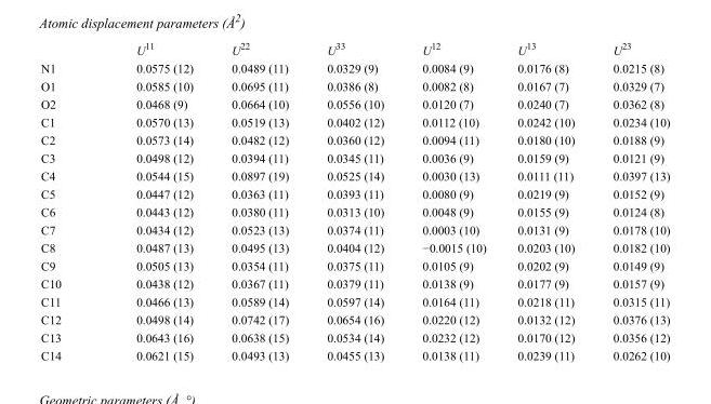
<table><thead><tr><td></td><td>U<sup>11</sup></td><td>U<sup>22</sup></td><td>U<sup>33</sup></td><td>U<sup>12</sup></td><td>U<sup>13</sup></td><td>U<sup>23</sup></td></tr></thead><tbody><tr><td>N1</td><td>0.0575 (12)</td><td>0.0489 (11)</td><td>0.0329 (9)</td><td>0.0084 (9)</td><td>0.0176 (8)</td><td>0.0215 (8)</td></tr><tr><td>O1</td><td>0.0585 (10)</td><td>0.0695 (11)</td><td>0.0386 (8)</td><td>0.0082 (8)</td><td>0.0167 (7)</td><td>0.0329 (7)</td></tr><tr><td>O2</td><td>0.0468 (9)</td><td>0.0664 (10)</td><td>0.0556 (10)</td><td>0.0120 (7)</td><td>0.0240 (7)</td><td>0.0362 (8)</td></tr><tr><td>C1</td><td>0.0570 (13)</td><td>0.0519 (13)</td><td>0.0402 (12)</td><td>0.0112 (10)</td><td>0.0242 (10)</td><td>0.0234 (10)</td></tr><tr><td>C2</td><td>0.0573 (14)</td><td>0.0482 (12)</td><td>0.0360 (12)</td><td>0.0094 (11)</td><td>0.0180 (10)</td><td>0.0188 (9)</td></tr><tr><td>C3</td><td>0.0498 (12)</td><td>0.0394 (11)</td><td>0.0345 (11)</td><td>0.0036 (9)</td><td>0.0159 (9)</td><td>0.0121 (9)</td></tr><tr><td>C4</td><td>0.0544 (15)</td><td>0.0897 (19)</td><td>0.0525 (14)</td><td>0.0030 (13)</td><td>0.0111 (11)</td><td>0.0397 (13)</td></tr><tr><td>C5</td><td>0.0447 (12)</td><td>0.0363 (11)</td><td>0.0393 (11)</td><td>0.0080 (9)</td><td>0.0219 (9)</td><td>0.0152 (9)</td></tr><tr><td>C6</td><td>0.0443 (12)</td><td>0.0380 (11)</td><td>0.0313 (10)</td><td>0.0048 (9)</td><td>0.0155 (9)</td><td>0.0124 (8)</td></tr><tr><td>C7</td><td>0.0434 (12)</td><td>0.0523 (13)</td><td>0.0374 (11)</td><td>0.0003 (10)</td><td>0.0131 (9)</td><td>0.0178 (10)</td></tr><tr><td>C8</td><td>0.0487 (13)</td><td>0.0495 (13)</td><td>0.0404 (12)</td><td>−0.0015 (10)</td><td>0.0203 (10)</td><td>0.0182 (10)</td></tr><tr><td>C9</td><td>0.0505 (13)</td><td>0.0354 (11)</td><td>0.0375 (11)</td><td>0.0105 (9)</td><td>0.0202 (9)</td><td>0.0149 (9)</td></tr><tr><td>C10</td><td>0.0438 (12)</td><td>0.0367 (11)</td><td>0.0379 (11)</td><td>0.0138 (9)</td><td>0.0177 (9)</td><td>0.0157 (9)</td></tr><tr><td>C11</td><td>0.0466 (13)</td><td>0.0589 (14)</td><td>0.0597 (14)</td><td>0.0164 (11)</td><td>0.0218 (11)</td><td>0.0315 (11)</td></tr><tr><td>C12</td><td>0.0498 (14)</td><td>0.0742 (17)</td><td>0.0654 (16)</td><td>0.0220 (12)</td><td>0.0132 (12)</td><td>0.0376 (13)</td></tr><tr><td>C13</td><td>0.0643 (16)</td><td>0.0638 (15)</td><td>0.0534 (14)</td><td>0.0232 (12)</td><td>0.0170 (12)</td><td>0.0356 (12)</td></tr><tr><td>C14</td><td>0.0621 (15)</td><td>0.0493 (13)</td><td>0.0455 (13)</td><td>0.0138 (11)</td><td>0.0239 (11)</td><td>0.0262 (10)</td></tr></tbody></table>